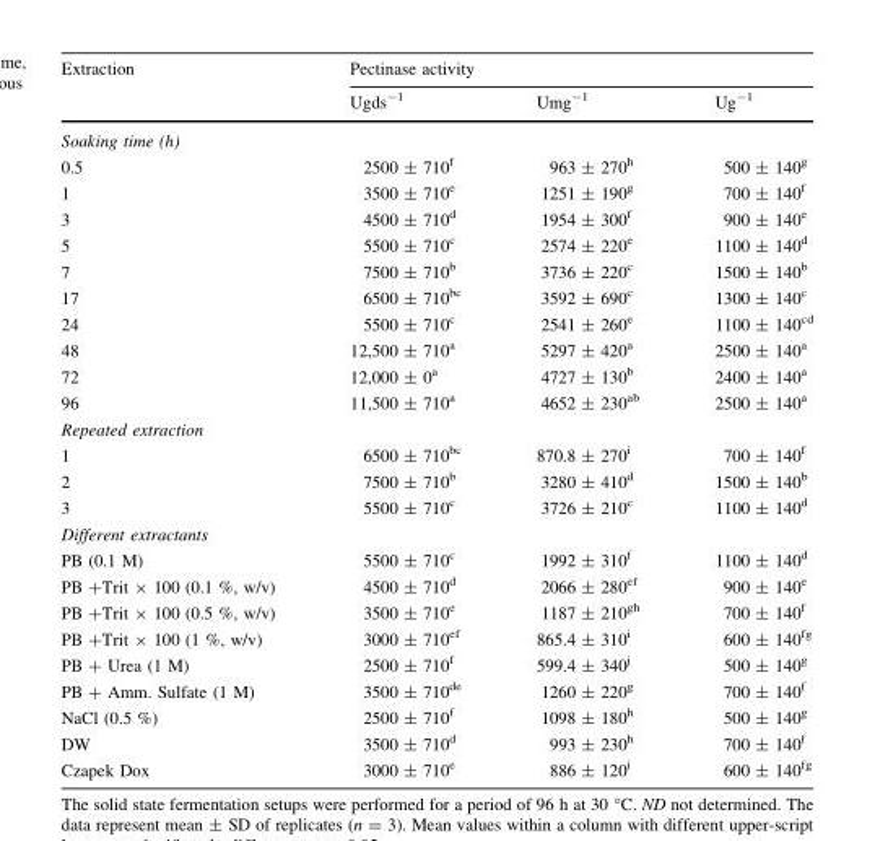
<table><thead><tr><td rowspan="2">Extraction</td><td colspan="3">Pectinase activity</td></tr><tr><td>Ugds<sup>-1</sup></td><td>Umg<sup>-1</sup></td><td>Ug<sup>-1</sup></td></tr></thead><tbody><tr><td colspan="4">Soaking time (h)</td></tr><tr><td>0.5</td><td>2500 ± 710<sup>f</sup></td><td>963 ± 270<sup>h</sup></td><td>500 ± 140<sup>g</sup></td></tr><tr><td>1</td><td>3500 ± 710<sup>e</sup></td><td>1251 ± 190<sup>g</sup></td><td>700 ± 140<sup>f</sup></td></tr><tr><td>3</td><td>4500 ± 710<sup>d</sup></td><td>1954 ± 300<sup>f</sup></td><td>900 ± 140<sup>e</sup></td></tr><tr><td>5</td><td>5500 ± 710<sup>c</sup></td><td>2574 ± 220<sup>e</sup></td><td>1100 ± 140<sup>d</sup></td></tr><tr><td>7</td><td>7500 ± 710<sup>b</sup></td><td>3736 ± 220<sup>c</sup></td><td>1500 ± 140<sup>b</sup></td></tr><tr><td>17</td><td>6500 ± 710<sup>bc</sup></td><td>3592 ± 690<sup>c</sup></td><td>1300 ± 140<sup>c</sup></td></tr><tr><td>24</td><td>5500 ± 710<sup>c</sup></td><td>2541 ± 260<sup>e</sup></td><td>1100 ± 140<sup>cd</sup></td></tr><tr><td>48</td><td>12,500 ± 710<sup>a</sup></td><td>5297 ± 420<sup>a</sup></td><td>2500 ± 140<sup>a</sup></td></tr><tr><td>72</td><td>12,000 ± 0<sup>a</sup></td><td>4727 ± 130<sup>b</sup></td><td>2400 ± 140<sup>a</sup></td></tr><tr><td>96</td><td>11,500 ± 710<sup>a</sup></td><td>4652 ± 230<sup>ab</sup></td><td>2500 ± 140<sup>a</sup></td></tr><tr><td colspan="4">Repeated extraction</td></tr><tr><td>1</td><td>6500 ± 710<sup>bc</sup></td><td>870.8 ± 270<sup>i</sup></td><td>700 ± 140<sup>f</sup></td></tr><tr><td>2</td><td>7500 ± 710<sup>b</sup></td><td>3280 ± 410<sup>d</sup></td><td>1500 ± 140<sup>b</sup></td></tr><tr><td>3</td><td>5500 ± 710<sup>c</sup></td><td>3726 ± 210<sup>c</sup></td><td>1100 ± 140<sup>d</sup></td></tr><tr><td colspan="4">Different extractants</td></tr><tr><td>PB (0.1 M)</td><td>5500 ± 710<sup>c</sup></td><td>1992 ± 310<sup>f</sup></td><td>1100 ± 140<sup>d</sup></td></tr><tr><td>PB +Trit × 100 (0.1 %, w/v)</td><td>4500 ± 710<sup>d</sup></td><td>2066 ± 280<sup>ef</sup></td><td>900 ± 140<sup>e</sup></td></tr><tr><td>PB +Trit × 100 (0.5 %, w/v)</td><td>3500 ± 710<sup>e</sup></td><td>1187 ± 210<sup>gh</sup></td><td>700 ± 140<sup>f</sup></td></tr><tr><td>PB +Trit × 100 (1 %, w/v)</td><td>3000 ± 710<sup>ef</sup></td><td>865.4 ± 310<sup>i</sup></td><td>600 ± 140<sup>fg</sup></td></tr><tr><td>PB + Urea (1 M)</td><td>2500 ± 710<sup>f</sup></td><td>599.4 ± 340<sup>j</sup></td><td>500 ± 140<sup>g</sup></td></tr><tr><td>PB + Amm. Sulfate (1 M)</td><td>3500 ± 710<sup>de</sup></td><td>1260 ± 220<sup>g</sup></td><td>700 ± 140<sup>f</sup></td></tr><tr><td>NaCl (0.5 %)</td><td>2500 ± 710<sup>f</sup></td><td>1098 ± 180<sup>h</sup></td><td>500 ± 140<sup>g</sup></td></tr><tr><td>DW</td><td>3500 ± 710<sup>d</sup></td><td>993 ± 230<sup>h</sup></td><td>700 ± 140<sup>f</sup></td></tr><tr><td>Czapek Dox</td><td>3000 ± 710<sup>e</sup></td><td>886 ± 120<sup>i</sup></td><td>600 ± 140<sup>fg</sup></td></tr></tbody></table>